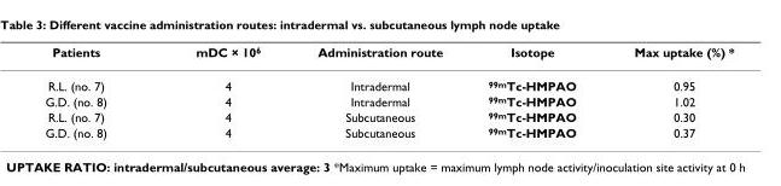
<table><thead><tr><td>Patients</td><td>mDC × 10<sup>6</sup></td><td>Administration route</td><td>Isotope</td><td>Max uptake (%) *</td></tr></thead><tbody><tr><td>R.L. (no. 7)</td><td>4</td><td>Intradermal</td><td><sup>99m</sup>Tc-HMPAO</td><td>0.95</td></tr><tr><td>G.D. (no. 8)</td><td>4</td><td>Intradermal</td><td><sup>99m</sup>Tc-HMPAO</td><td>1.02</td></tr><tr><td>R.L. (no. 7)</td><td>4</td><td>Subcutaneous</td><td><sup>99m</sup>Tc-HMPAO</td><td>0.30</td></tr><tr><td>G.D. (no. 8)</td><td>4</td><td>Subcutaneous</td><td><sup>99m</sup>Tc-HMPAO</td><td>0.37</td></tr></tbody></table>